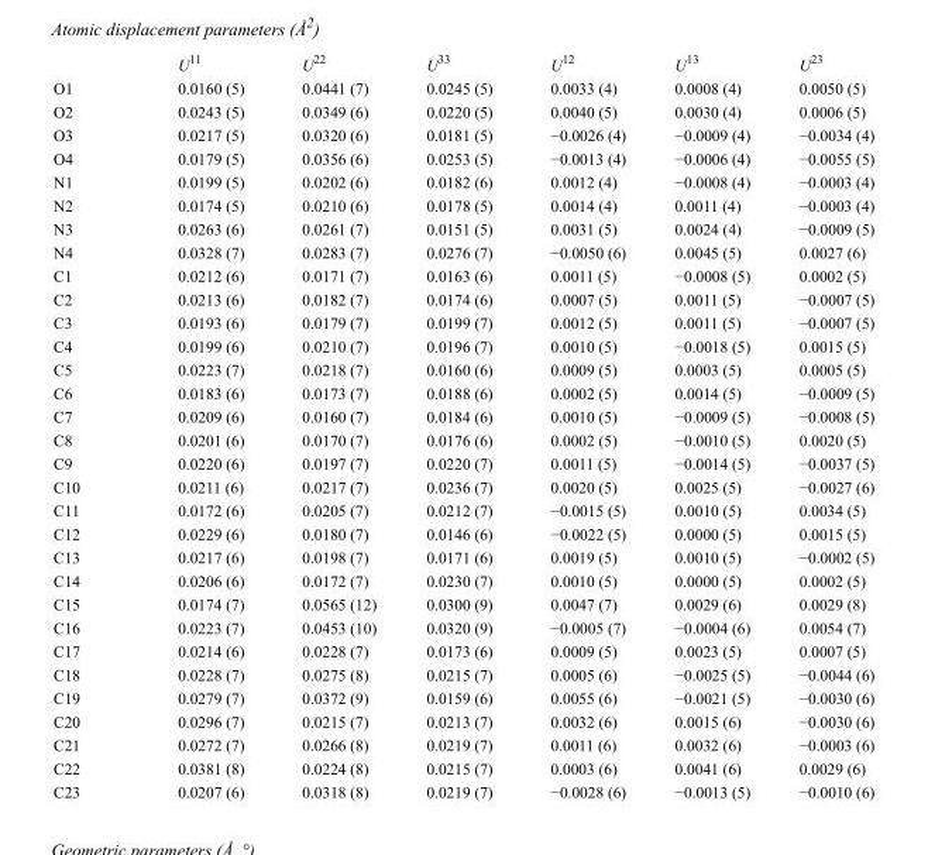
<table><thead><tr><td></td><td>U<sup>11</sup></td><td>U<sup>22</sup></td><td>U<sup>33</sup></td><td>U<sup>12</sup></td><td>U<sup>13</sup></td><td>U<sup>23</sup></td></tr></thead><tbody><tr><td>O1</td><td>0.0160 (5)</td><td>0.0441 (7)</td><td>0.0245 (5)</td><td>0.0033 (4)</td><td>0.0008 (4)</td><td>0.0050 (5)</td></tr><tr><td>O2</td><td>0.0243 (5)</td><td>0.0349 (6)</td><td>0.0220 (5)</td><td>0.0040 (5)</td><td>0.0030 (4)</td><td>0.0006 (5)</td></tr><tr><td>O3</td><td>0.0217 (5)</td><td>0.0320 (6)</td><td>0.0181 (5)</td><td>−0.0026 (4)</td><td>−0.0009 (4)</td><td>−0.0034 (4)</td></tr><tr><td>O4</td><td>0.0179 (5)</td><td>0.0356 (6)</td><td>0.0253 (5)</td><td>−0.0013 (4)</td><td>−0.0006 (4)</td><td>−0.0055 (5)</td></tr><tr><td>N1</td><td>0.0199 (5)</td><td>0.0202 (6)</td><td>0.0182 (6)</td><td>0.0012 (4)</td><td>−0.0008 (4)</td><td>−0.0003 (4)</td></tr><tr><td>N2</td><td>0.0174 (5)</td><td>0.0210 (6)</td><td>0.0178 (5)</td><td>0.0014 (4)</td><td>0.0011 (4)</td><td>−0.0003 (4)</td></tr><tr><td>N3</td><td>0.0263 (6)</td><td>0.0261 (7)</td><td>0.0151 (5)</td><td>0.0031 (5)</td><td>0.0024 (4)</td><td>−0.0009 (5)</td></tr><tr><td>N4</td><td>0.0328 (7)</td><td>0.0283 (7)</td><td>0.0276 (7)</td><td>−0.0050 (6)</td><td>0.0045 (5)</td><td>0.0027 (6)</td></tr><tr><td>C1</td><td>0.0212 (6)</td><td>0.0171 (7)</td><td>0.0163 (6)</td><td>0.0011 (5)</td><td>−0.0008 (5)</td><td>0.0002 (5)</td></tr><tr><td>C2</td><td>0.0213 (6)</td><td>0.0182 (7)</td><td>0.0174 (6)</td><td>0.0007 (5)</td><td>0.0011 (5)</td><td>−0.0007 (5)</td></tr><tr><td>C3</td><td>0.0193 (6)</td><td>0.0179 (7)</td><td>0.0199 (7)</td><td>0.0012 (5)</td><td>0.0011 (5)</td><td>−0.0007 (5)</td></tr><tr><td>C4</td><td>0.0199 (6)</td><td>0.0210 (7)</td><td>0.0196 (7)</td><td>0.0010 (5)</td><td>−0.0018 (5)</td><td>0.0015 (5)</td></tr><tr><td>C5</td><td>0.0223 (7)</td><td>0.0218 (7)</td><td>0.0160 (6)</td><td>0.0009 (5)</td><td>0.0003 (5)</td><td>0.0005 (5)</td></tr><tr><td>C6</td><td>0.0183 (6)</td><td>0.0173 (7)</td><td>0.0188 (6)</td><td>0.0002 (5)</td><td>0.0014 (5)</td><td>−0.0009 (5)</td></tr><tr><td>C7</td><td>0.0209 (6)</td><td>0.0160 (7)</td><td>0.0184 (6)</td><td>0.0010 (5)</td><td>−0.0009 (5)</td><td>−0.0008 (5)</td></tr><tr><td>C8</td><td>0.0201 (6)</td><td>0.0170 (7)</td><td>0.0176 (6)</td><td>0.0002 (5)</td><td>−0.0010 (5)</td><td>0.0020 (5)</td></tr><tr><td>C9</td><td>0.0220 (6)</td><td>0.0197 (7)</td><td>0.0220 (7)</td><td>0.0011 (5)</td><td>−0.0014 (5)</td><td>−0.0037 (5)</td></tr><tr><td>C10</td><td>0.0211 (6)</td><td>0.0217 (7)</td><td>0.0236 (7)</td><td>0.0020 (5)</td><td>0.0025 (5)</td><td>−0.0027 (6)</td></tr><tr><td>C11</td><td>0.0172 (6)</td><td>0.0205 (7)</td><td>0.0212 (7)</td><td>−0.0015 (5)</td><td>0.0010 (5)</td><td>0.0034 (5)</td></tr><tr><td>C12</td><td>0.0229 (6)</td><td>0.0180 (7)</td><td>0.0146 (6)</td><td>−0.0022 (5)</td><td>0.0000 (5)</td><td>0.0015 (5)</td></tr><tr><td>C13</td><td>0.0217 (6)</td><td>0.0198 (7)</td><td>0.0171 (6)</td><td>0.0019 (5)</td><td>0.0010 (5)</td><td>−0.0002 (5)</td></tr><tr><td>C14</td><td>0.0206 (6)</td><td>0.0172 (7)</td><td>0.0230 (7)</td><td>0.0010 (5)</td><td>0.0000 (5)</td><td>0.0002 (5)</td></tr><tr><td>C15</td><td>0.0174 (7)</td><td>0.0565 (12)</td><td>0.0300 (9)</td><td>0.0047 (7)</td><td>0.0029 (6)</td><td>0.0029 (8)</td></tr><tr><td>C16</td><td>0.0223 (7)</td><td>0.0453 (10)</td><td>0.0320 (9)</td><td>−0.0005 (7)</td><td>−0.0004 (6)</td><td>0.0054 (7)</td></tr><tr><td>C17</td><td>0.0214 (6)</td><td>0.0228 (7)</td><td>0.0173 (6)</td><td>0.0009 (5)</td><td>0.0023 (5)</td><td>0.0007 (5)</td></tr><tr><td>C18</td><td>0.0228 (7)</td><td>0.0275 (8)</td><td>0.0215 (7)</td><td>0.0005 (6)</td><td>−0.0025 (5)</td><td>−0.0044 (6)</td></tr><tr><td>C19</td><td>0.0279 (7)</td><td>0.0372 (9)</td><td>0.0159 (6)</td><td>0.0055 (6)</td><td>−0.0021 (5)</td><td>−0.0030 (6)</td></tr><tr><td>C20</td><td>0.0296 (7)</td><td>0.0215 (7)</td><td>0.0213 (7)</td><td>0.0032 (6)</td><td>0.0015 (6)</td><td>−0.0030 (6)</td></tr><tr><td>C21</td><td>0.0272 (7)</td><td>0.0266 (8)</td><td>0.0219 (7)</td><td>0.0011 (6)</td><td>0.0032 (6)</td><td>−0.0003 (6)</td></tr><tr><td>C22</td><td>0.0381 (8)</td><td>0.0224 (8)</td><td>0.0215 (7)</td><td>0.0003 (6)</td><td>0.0041 (6)</td><td>0.0029 (6)</td></tr><tr><td>C23</td><td>0.0207 (6)</td><td>0.0318 (8)</td><td>0.0219 (7)</td><td>−0.0028 (6)</td><td>−0.0013 (5)</td><td>−0.0010 (6)</td></tr></tbody></table>